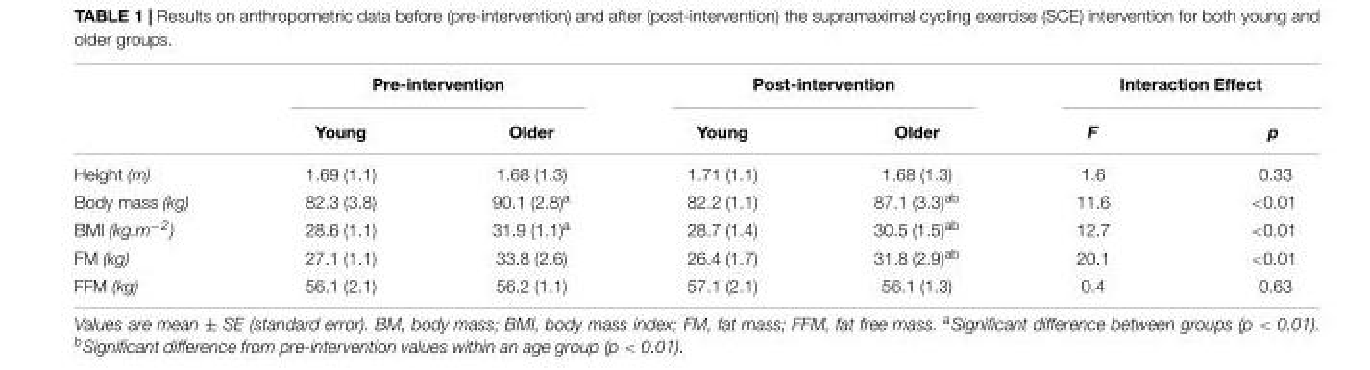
<table><thead><tr><td rowspan="2"></td><td colspan="2">Pre-intervention</td><td colspan="2">Post-intervention</td><td colspan="2">Interaction Effect</td></tr><tr><td>Young</td><td>Older</td><td>Young</td><td>Older</td><td>F</td><td>p</td></tr></thead><tbody><tr><td>Height (m)</td><td>1.69 (1.1)</td><td>1.68 (1.3)</td><td>1.71 (1.1)</td><td>1.68 (1.3)</td><td>1.6</td><td>0.33</td></tr><tr><td>Body mass (kg)</td><td>82.3 (3.8)</td><td>90.1 (2.8)<sup>a</sup></td><td>82.2 (1.1)</td><td>87.1 (3.3)<sup>ab</sup></td><td>11.6</td><td>&lt;0.01</td></tr><tr><td>BMI (kg.m−2)</td><td>28.6 (1.1)</td><td>31.9 (1.1)<sup>a</sup></td><td>28.7 (1.4)</td><td>30.5 (1.5)<sup>ab</sup></td><td>12.7</td><td>&lt;0.01</td></tr><tr><td>FM (kg)</td><td>27.1 (1.1)</td><td>33.8 (2.6)</td><td>26.4 (1.7)</td><td>31.8 (2.9)<sup>ab</sup></td><td>20.1</td><td>&lt;0.01</td></tr><tr><td>FFM (kg)</td><td>56.1 (2.1)</td><td>56.2 (1.1)</td><td>57.1 (2.1)</td><td>56.1 (1.3)</td><td>0.4</td><td>0.63</td></tr></tbody></table>